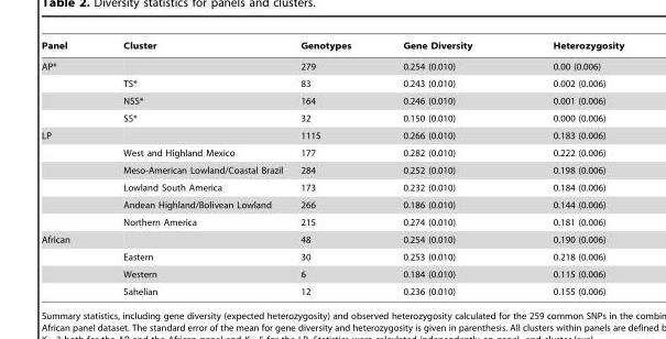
<table><thead><tr><td>Panel</td><td>Cluster</td><td>Genotypes</td><td>Gene Diversity</td><td>Heterozygosity</td></tr></thead><tbody><tr><td rowspan="4">AP*</td><td></td><td>279</td><td>0.254 (0.010)</td><td>0.00 (0.006)</td></tr><tr><td>TS*</td><td>83</td><td>0.243 (0.010)</td><td>0.002 (0.006)</td></tr><tr><td>NSS*</td><td>164</td><td>0.246 (0.010)</td><td>0.001 (0.006)</td></tr><tr><td>SS*</td><td>32</td><td>0.150 (0.010)</td><td>0.000 (0.006)</td></tr><tr><td rowspan="6">LP</td><td></td><td>1115</td><td>0.266 (0.010)</td><td>0.183 (0.006)</td></tr><tr><td>West and Highland Mexico</td><td>177</td><td>0.282 (0.010)</td><td>0.222 (0.006)</td></tr><tr><td>Meso-American Lowland/Coastal Brazil</td><td>284</td><td>0.252 (0.010)</td><td>0.198 (0.006)</td></tr><tr><td>Lowland South America</td><td>173</td><td>0.232 (0.010)</td><td>0.184 (0.006)</td></tr><tr><td>Andean Highland/Bolivean Lowland</td><td>266</td><td>0.186 (0.010)</td><td>0.144 (0.006)</td></tr><tr><td>Northern America</td><td>215</td><td>0.274 (0.010)</td><td>0.181 (0.006)</td></tr><tr><td rowspan="4">African</td><td></td><td>48</td><td>0.254 (0.010)</td><td>0.190 (0.006)</td></tr><tr><td>Eastern</td><td>30</td><td>0.253 (0.010)</td><td>0.218 (0.006)</td></tr><tr><td>Western</td><td>6</td><td>0.184 (0.010)</td><td>0.115 (0.006)</td></tr><tr><td>Sahelian</td><td>12</td><td>0.236 (0.010)</td><td>0.155 (0.006)</td></tr></tbody></table>